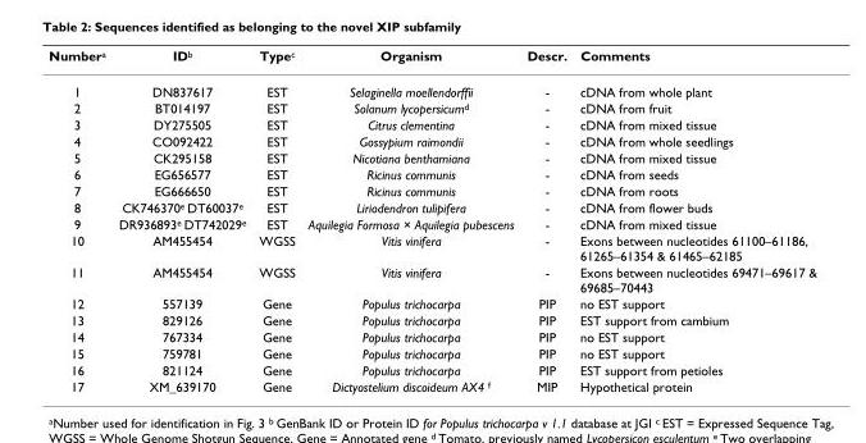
<table><thead><tr><td>Number<sup>a</sup></td><td>ID<sup>b</sup></td><td>Type<sup>c</sup></td><td>Organism</td><td>Descr.</td><td>Comments</td></tr></thead><tbody><tr><td>1</td><td>DN837617</td><td>EST</td><td>Selaginella moellendorffii</td><td>-</td><td>cDNA from whole plant</td></tr><tr><td>2</td><td>BT014197</td><td>EST</td><td>Solanum lycopersicum<sup>d</sup></td><td>-</td><td>cDNA from fruit</td></tr><tr><td>3</td><td>DY275505</td><td>EST</td><td>Citrus clementina</td><td>-</td><td>cDNA from mixed tissue</td></tr><tr><td>4</td><td>CO092422</td><td>EST</td><td>Gossypium raimondii</td><td>-</td><td>cDNA from whole seedlings</td></tr><tr><td>5</td><td>CK295158</td><td>EST</td><td>Nicotiana benthamiana</td><td>-</td><td>cDNA from mixed tissue</td></tr><tr><td>6</td><td>EG656577</td><td>EST</td><td>Ricinus communis</td><td>-</td><td>cDNA from seeds</td></tr><tr><td>7</td><td>EG666650</td><td>EST</td><td>Ricinus communis</td><td>-</td><td>cDNA from roots</td></tr><tr><td>8</td><td>CK746370<sup>e</sup> DT60037<sup>e</sup></td><td>EST</td><td>Liriodendron tulipifera</td><td>-</td><td>cDNA from flower buds</td></tr><tr><td>9</td><td>DR936893<sup>e</sup> DT742029<sup>e</sup></td><td>EST</td><td>Aquilegia Formosa × Aquilegia pubescens</td><td>-</td><td>cDNA from mixed tissue</td></tr><tr><td>10</td><td>AM455454</td><td>WGSS</td><td>Vitis vinifera</td><td>-</td><td>Exons between nucleotides 61100–61186, 61265–61354 &amp; 61465–62185</td></tr><tr><td>11</td><td>AM455454</td><td>WGSS</td><td>Vitis vinifera</td><td>-</td><td>Exons between nucleotides 69471–69617 &amp; 69685–70443</td></tr><tr><td>12</td><td>557139</td><td>Gene</td><td>Populus trichocarpa</td><td>PIP</td><td>no EST support</td></tr><tr><td>13</td><td>829126</td><td>Gene</td><td>Populus trichocarpa</td><td>PIP</td><td>EST support from cambium</td></tr><tr><td>14</td><td>767334</td><td>Gene</td><td>Populus trichocarpa</td><td>PIP</td><td>no EST support</td></tr><tr><td>15</td><td>759781</td><td>Gene</td><td>Populus trichocarpa</td><td>PIP</td><td>no EST support</td></tr><tr><td>16</td><td>821124</td><td>Gene</td><td>Populus trichocarpa</td><td>PIP</td><td>EST support from petioles</td></tr><tr><td>17</td><td>XM_639170</td><td>Gene</td><td>Dictyostelium discoideum AX4 <sup>f</sup></td><td>MIP</td><td>Hypothetical protein</td></tr></tbody></table>